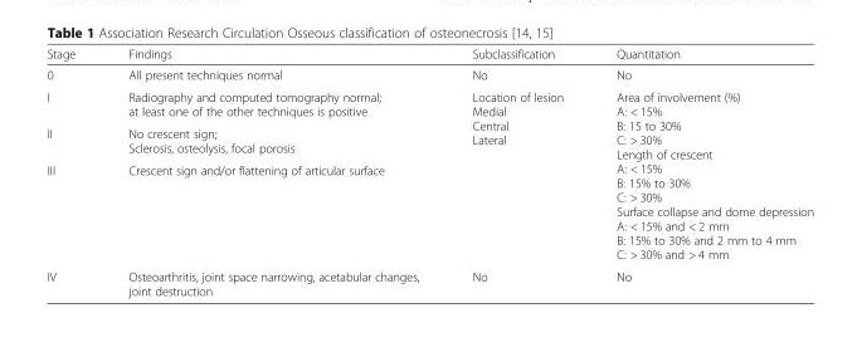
<table><thead><tr><td>Stage</td><td>Findings</td><td>Subclassification</td><td>Quantitation</td></tr></thead><tbody><tr><td>0</td><td>All present techniques normal</td><td>No</td><td>No</td></tr><tr><td>I</td><td>Radiography and computed tomography normal; at least one of the other techniques is positive</td><td rowspan="3">Location of lesion Medial Central Lateral</td><td rowspan="3">Area of involvement (%) A: &lt; 15% B: 15 to 30% C: &gt; 30% Length of crescent A: &lt; 15% B: 15% to 30% C: &gt; 30% Surface collapse and dome depression A: &lt; 15% and &lt; 2 mm B: 15% to 30% and 2 mm to 4 mm C: &gt; 30% and &gt; 4 mm</td></tr><tr><td>II</td><td>No crescent sign; Sclerosis, osteolysis, focal porosis</td></tr><tr><td>III</td><td>Crescent sign and/or flattening of articular surface</td></tr><tr><td>IV</td><td>Osteoarthritis, joint space narrowing, acetabular changes, joint destruction</td><td>No</td><td>No</td></tr></tbody></table>